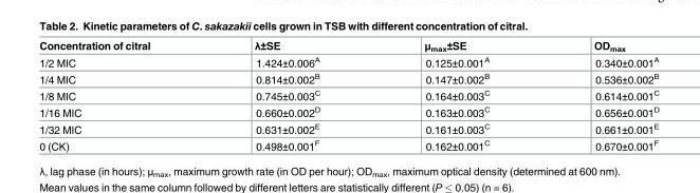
<table><thead><tr><td>Concentration of citral</td><td>λ±SE</td><td>μ<sub>max</sub>±SE</td><td>OD<sub>max</sub></td></tr></thead><tbody><tr><td>1/2 MIC</td><td>1.424±0.006<sup>A</sup></td><td>0.125±0.001<sup>A</sup></td><td>0.340±0.001<sup>A</sup></td></tr><tr><td>1/4 MIC</td><td>0.814±0.002<sup>B</sup></td><td>0.147±0.002<sup>B</sup></td><td>0.536±0.002<sup>B</sup></td></tr><tr><td>1/8 MIC</td><td>0.745±0.003<sup>C</sup></td><td>0.164±0.003<sup>C</sup></td><td>0.614±0.001<sup>C</sup></td></tr><tr><td>1/16 MIC</td><td>0.660±0.002<sup>D</sup></td><td>0.163±0.003<sup>C</sup></td><td>0.656±0.001<sup>D</sup></td></tr><tr><td>1/32 MIC</td><td>0.631±0.002<sup>E</sup></td><td>0.161±0.003<sup>C</sup></td><td>0.661±0.001<sup>E</sup></td></tr><tr><td>0 (CK)</td><td>0.498±0.001<sup>F</sup></td><td>0.162±0.001<sup>C</sup></td><td>0.670±0.001<sup>F</sup></td></tr></tbody></table>